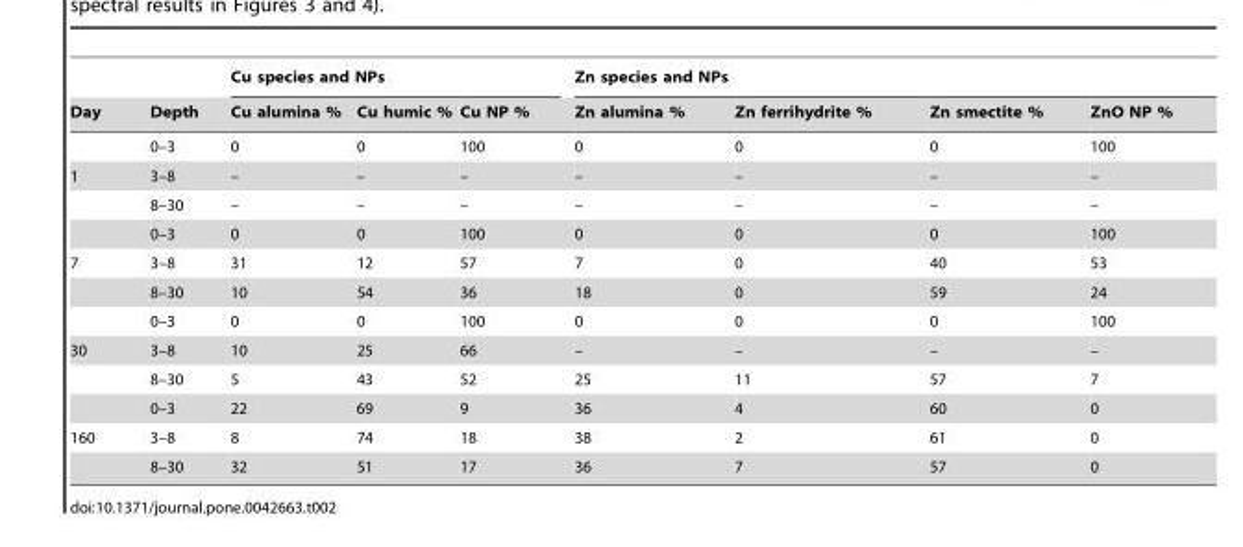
<table><thead><tr><td rowspan="2">Day</td><td rowspan="2">Depth</td><td colspan="3">Cu species and NPs</td><td colspan="4">Zn species and NPs</td></tr><tr><td>Cu alumina %</td><td>Cu humic %</td><td>Cu NP %</td><td>Zn alumina %</td><td>Zn ferrihydrite %</td><td>Zn smectite %</td><td>ZnO NP %</td></tr></thead><tbody><tr><td></td><td>0–3</td><td>0</td><td>0</td><td>100</td><td>0</td><td>0</td><td>0</td><td>100</td></tr><tr><td rowspan="3">1</td><td>3–8</td><td>–</td><td>–</td><td>–</td><td>–</td><td>–</td><td>–</td><td>–</td></tr><tr><td>8–30</td><td>–</td><td>–</td><td>–</td><td>–</td><td>–</td><td>–</td><td>–</td></tr><tr><td>0–3</td><td>0</td><td>0</td><td>100</td><td>0</td><td>0</td><td>0</td><td>100</td></tr><tr><td rowspan="3">7</td><td>3–8</td><td>31</td><td>12</td><td>57</td><td>7</td><td>0</td><td>40</td><td>53</td></tr><tr><td>8–30</td><td>10</td><td>54</td><td>36</td><td>18</td><td>0</td><td>59</td><td>24</td></tr><tr><td>0–3</td><td>0</td><td>0</td><td>100</td><td>0</td><td>0</td><td>0</td><td>100</td></tr><tr><td rowspan="3">30</td><td>3–8</td><td>10</td><td>25</td><td>66</td><td>–</td><td>–</td><td>–</td><td>–</td></tr><tr><td>8–30</td><td>5</td><td>43</td><td>52</td><td>25</td><td>11</td><td>57</td><td>7</td></tr><tr><td>0–3</td><td>22</td><td>69</td><td>9</td><td>36</td><td>4</td><td>60</td><td>0</td></tr><tr><td rowspan="2">160</td><td>3–8</td><td>8</td><td>74</td><td>18</td><td>38</td><td>2</td><td>61</td><td>0</td></tr><tr><td>8–30</td><td>32</td><td>51</td><td>17</td><td>36</td><td>7</td><td>57</td><td>0</td></tr></tbody></table>